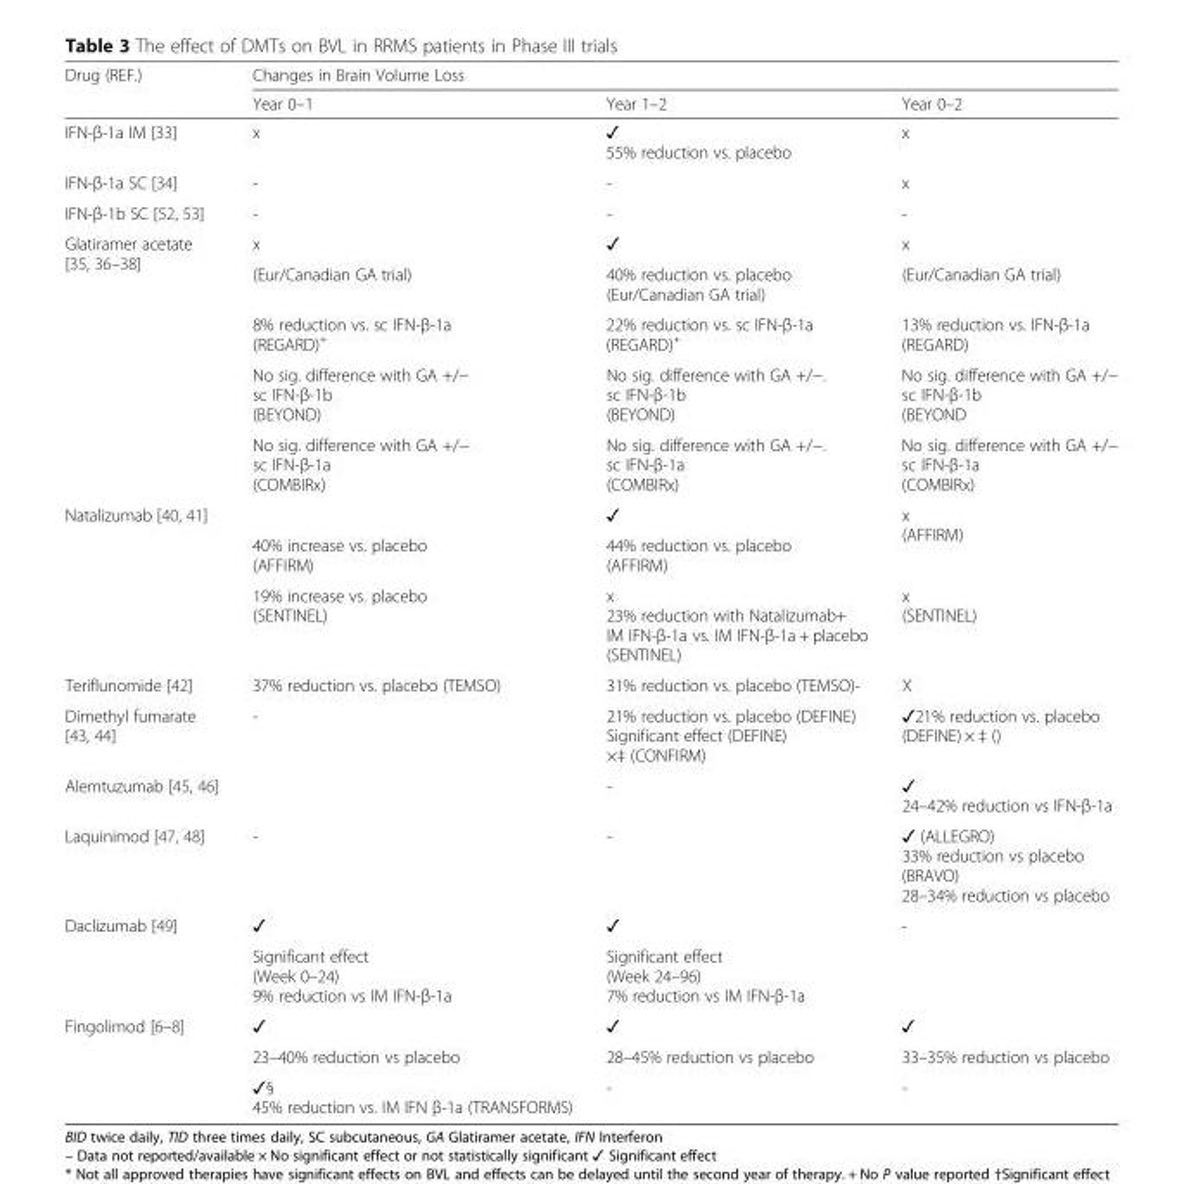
<table><thead><tr><td rowspan="2">Drug (REF.)</td><td colspan="3">Changes in Brain Volume Loss</td></tr><tr><td>Year 0–1</td><td>Year 1–2</td><td>Year 0–2</td></tr></thead><tbody><tr><td>IFN-β-1a IM [33]</td><td>x</td><td>✓ 55% reduction vs. placebo</td><td>x</td></tr><tr><td>IFN-β-1a SC [34]</td><td>-</td><td>-</td><td>x</td></tr><tr><td>IFN-β-1b SC [52, 53]</td><td>-</td><td>-</td><td>-</td></tr><tr><td rowspan="5">Glatiramer acetate [35, 36–38]</td><td>x</td><td>✓</td><td>x</td></tr><tr><td>(Eur/Canadian GA trial)</td><td>40% reduction vs. placebo (Eur/Canadian GA trial)</td><td>(Eur/Canadian GA trial)</td></tr><tr><td>8% reduction vs. sc IFN-β-1a (REGARD)<sup>+</sup></td><td>22% reduction vs. sc IFN-β-1a (REGARD)<sup>+</sup></td><td>13% reduction vs. IFN-β-1a (REGARD)</td></tr><tr><td>No sig. difference with GA +/− sc IFN-β-1b (BEYOND)</td><td>No sig. difference with GA +/−. sc IFN-β-1b (BEYOND)</td><td>No sig. difference with GA +/− sc IFN-β-1b (BEYOND</td></tr><tr><td>No sig. difference with GA +/− sc IFN-β-1a (COMBIRx)</td><td>No sig. difference with GA +/−. sc IFN-β-1a (COMBIRx)</td><td>No sig. difference with GA +/− sc IFN-β-1a (COMBIRx)</td></tr><tr><td rowspan="3">Natalizumab [40, 41]</td><td></td><td>✓</td><td rowspan="2">x (AFFIRM)</td></tr><tr><td>40% increase vs. placebo (AFFIRM)</td><td>44% reduction vs. placebo (AFFIRM)</td></tr><tr><td>19% increase vs. placebo (SENTINEL)</td><td>x 23% reduction with Natalizumab+ IM IFN-β-1a vs. IM IFN-β-1a + placebo (SENTINEL)</td><td>x (SENTINEL)</td></tr><tr><td>Teriflunomide [42]</td><td>37% reduction vs. placebo (TEMSO)</td><td>31% reduction vs. placebo (TEMSO)-</td><td>X</td></tr><tr><td>Dimethyl fumarate [43, 44]</td><td>-</td><td>21% reduction vs. placebo (DEFINE) Significant effect (DEFINE) ×‡ (CONFIRM)</td><td>✓21% reduction vs. placebo (DEFINE) × ‡ ()</td></tr><tr><td>Alemtuzumab [45, 46]</td><td></td><td>-</td><td>✓ 24–42% reduction vs IFN-β-1a</td></tr><tr><td>Laquinimod [47, 48]</td><td>-</td><td>-</td><td>✓ (ALLEGRO) 33% reduction vs placebo (BRAVO) 28–34% reduction vs placebo</td></tr><tr><td rowspan="2">Daclizumab [49]</td><td>✓</td><td>✓</td><td>-</td></tr><tr><td>Significant effect (Week 0–24) 9% reduction vs IM IFN-β-1a</td><td>Significant effect (Week 24–96) 7% reduction vs IM IFN-β-1a</td><td></td></tr><tr><td rowspan="3">Fingolimod [6–8]</td><td>✓</td><td>✓</td><td>✓</td></tr><tr><td>23–40% reduction vs placebo</td><td>28–45% reduction vs placebo</td><td>33–35% reduction vs placebo</td></tr><tr><td>✓§ 45% reduction vs. IM IFN β-1a (TRANSFORMS)</td><td>-</td><td>-</td></tr></tbody></table>